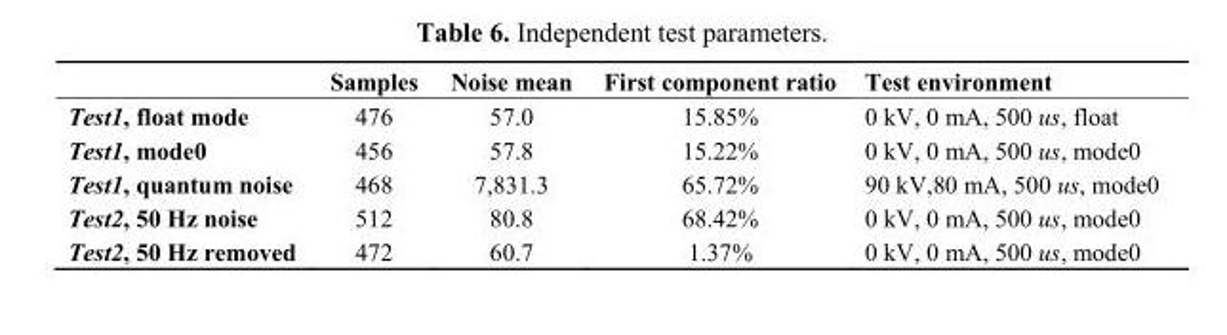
<table><thead><tr><td></td><td>Samples</td><td>Noise mean</td><td>First component ratio</td><td>Test environment</td></tr></thead><tbody><tr><td>Test1, float mode</td><td>476</td><td>57.0</td><td>15.85%</td><td>0 kV, 0 mA, 500 us, float</td></tr><tr><td>Test1, mode0</td><td>456</td><td>57.8</td><td>15.22%</td><td>0 kV, 0 mA, 500 us, mode0</td></tr><tr><td>Test1, quantum noise</td><td>468</td><td>7,831.3</td><td>65.72%</td><td>90 kV,80 mA, 500 us, mode0</td></tr><tr><td>Test2, 50 Hz noise</td><td>512</td><td>80.8</td><td>68.42%</td><td>0 kV, 0 mA, 500 us, mode0</td></tr><tr><td>Test2, 50 Hz removed</td><td>472</td><td>60.7</td><td>1.37%</td><td>0 kV, 0 mA, 500 us, mode0</td></tr></tbody></table>